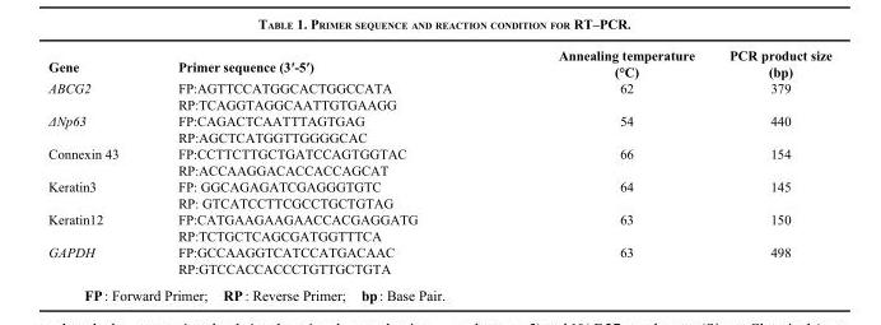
<table><thead><tr><td>Gene</td><td>Primer sequence (3′-5′)</td><td>Annealing temperature (°C)</td><td>PCR product size (bp)</td></tr></thead><tbody><tr><td rowspan="2">ABCG2</td><td>FP:AGTTCCATGGCACTGGCCATA</td><td>62</td><td>379</td></tr><tr><td>RP:TCAGGTAGGCAATTGTGAAGG</td><td></td><td></td></tr><tr><td rowspan="2">ΔNp63</td><td>FP:CAGACTCAATTTAGTGAG</td><td>54</td><td>440</td></tr><tr><td>RP:AGCTCATGGTTGGGGCAC</td><td></td><td></td></tr><tr><td rowspan="2">Connexin 43</td><td>FP:CCTTCTTGCTGATCCAGTGGTAC</td><td>66</td><td>154</td></tr><tr><td>RP:ACCAAGGACACCACCAGCAT</td><td></td><td></td></tr><tr><td rowspan="2">Keratin3</td><td>FP: GGCAGAGATCGAGGGTGTC</td><td>64</td><td>145</td></tr><tr><td>RP: GTCATCCTTCGCCTGCTGTAG</td><td></td><td></td></tr><tr><td rowspan="2">Keratin12</td><td>FP:CATGAAGAAGAACCACGAGGATG</td><td>63</td><td>150</td></tr><tr><td>RP:TCTGCTCAGCGATGGTTTCA</td><td></td><td></td></tr><tr><td rowspan="2">GAPDH</td><td>FP:GCCAAGGTCATCCATGACAAC</td><td>63</td><td>498</td></tr><tr><td>RP:GTCCACCACCCTGTTGCTGTA</td><td></td><td></td></tr></tbody></table>